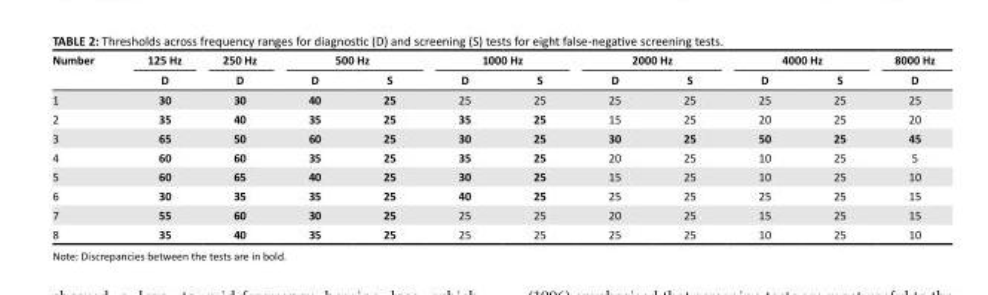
<table><thead><tr><td rowspan="2">Number</td><td rowspan="2">125 Hz D</td><td rowspan="2">250 Hz D</td><td colspan="2">500 Hz</td><td colspan="2">1000 Hz</td><td colspan="2">2000 Hz</td><td colspan="2">4000 Hz</td><td rowspan="2">8000 Hz D</td></tr><tr><td>D</td><td>S</td><td>D</td><td>S</td><td>D</td><td>S</td><td>D</td><td>S</td></tr></thead><tbody><tr><td>1</td><td>30</td><td>30</td><td>40</td><td>25</td><td>25</td><td>25</td><td>25</td><td>25</td><td>25</td><td>25</td><td>25</td></tr><tr><td>2</td><td>35</td><td>40</td><td>35</td><td>25</td><td>35</td><td>25</td><td>15</td><td>25</td><td>20</td><td>25</td><td>20</td></tr><tr><td>3</td><td>65</td><td>50</td><td>60</td><td>25</td><td>30</td><td>25</td><td>30</td><td>25</td><td>50</td><td>25</td><td>45</td></tr><tr><td>4</td><td>60</td><td>60</td><td>35</td><td>25</td><td>35</td><td>25</td><td>20</td><td>25</td><td>10</td><td>25</td><td>5</td></tr><tr><td>5</td><td>60</td><td>65</td><td>40</td><td>25</td><td>30</td><td>25</td><td>15</td><td>25</td><td>10</td><td>25</td><td>10</td></tr><tr><td>6</td><td>30</td><td>35</td><td>35</td><td>25</td><td>40</td><td>25</td><td>25</td><td>25</td><td>25</td><td>25</td><td>15</td></tr><tr><td>7</td><td>55</td><td>60</td><td>30</td><td>25</td><td>25</td><td>25</td><td>20</td><td>25</td><td>15</td><td>25</td><td>15</td></tr><tr><td>8</td><td>35</td><td>40</td><td>35</td><td>25</td><td>25</td><td>25</td><td>25</td><td>25</td><td>10</td><td>25</td><td>10</td></tr></tbody></table>